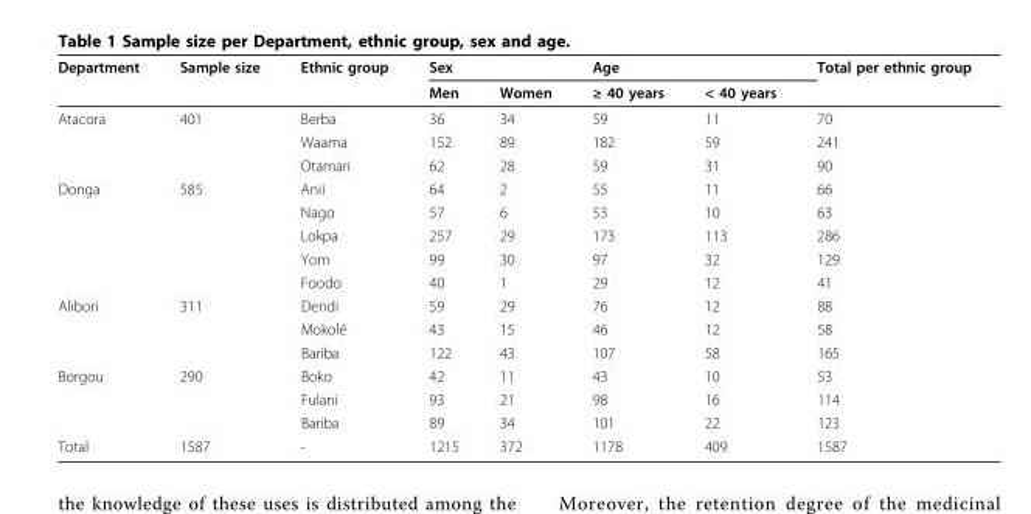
<table><thead><tr><td rowspan="2">Department</td><td rowspan="2">Sample size</td><td rowspan="2">Ethnic group</td><td colspan="2">Sex</td><td colspan="2">Age</td><td rowspan="2">Total per ethnic group</td></tr><tr><td>Men</td><td>Women</td><td>≥ 40 years</td><td>&lt; 40 years</td></tr></thead><tbody><tr><td rowspan="3">Atacora</td><td>401</td><td>Berba</td><td>36</td><td>34</td><td>59</td><td>11</td><td>70</td></tr><tr><td></td><td>Waama</td><td>152</td><td>89</td><td>182</td><td>59</td><td>241</td></tr><tr><td></td><td>Otamari</td><td>62</td><td>28</td><td>59</td><td>31</td><td>90</td></tr><tr><td rowspan="5">Donga</td><td>585</td><td>Anii</td><td>64</td><td>2</td><td>55</td><td>11</td><td>66</td></tr><tr><td></td><td>Nago</td><td>57</td><td>6</td><td>53</td><td>10</td><td>63</td></tr><tr><td></td><td>Lokpa</td><td>257</td><td>29</td><td>173</td><td>113</td><td>286</td></tr><tr><td></td><td>Yom</td><td>99</td><td>30</td><td>97</td><td>32</td><td>129</td></tr><tr><td></td><td>Foodo</td><td>40</td><td>1</td><td>29</td><td>12</td><td>41</td></tr><tr><td rowspan="3">Alibori</td><td>311</td><td>Dendi</td><td>59</td><td>29</td><td>76</td><td>12</td><td>88</td></tr><tr><td></td><td>Mokolé</td><td>43</td><td>15</td><td>46</td><td>12</td><td>58</td></tr><tr><td></td><td>Bariba</td><td>122</td><td>43</td><td>107</td><td>58</td><td>165</td></tr><tr><td rowspan="3">Borgou</td><td>290</td><td>Boko</td><td>42</td><td>11</td><td>43</td><td>10</td><td>53</td></tr><tr><td></td><td>Fulani</td><td>93</td><td>21</td><td>98</td><td>16</td><td>114</td></tr><tr><td></td><td>Bariba</td><td>89</td><td>34</td><td>101</td><td>22</td><td>123</td></tr><tr><td>Total</td><td>1587</td><td>-</td><td>1215</td><td>372</td><td>1178</td><td>409</td><td>1587</td></tr></tbody></table>